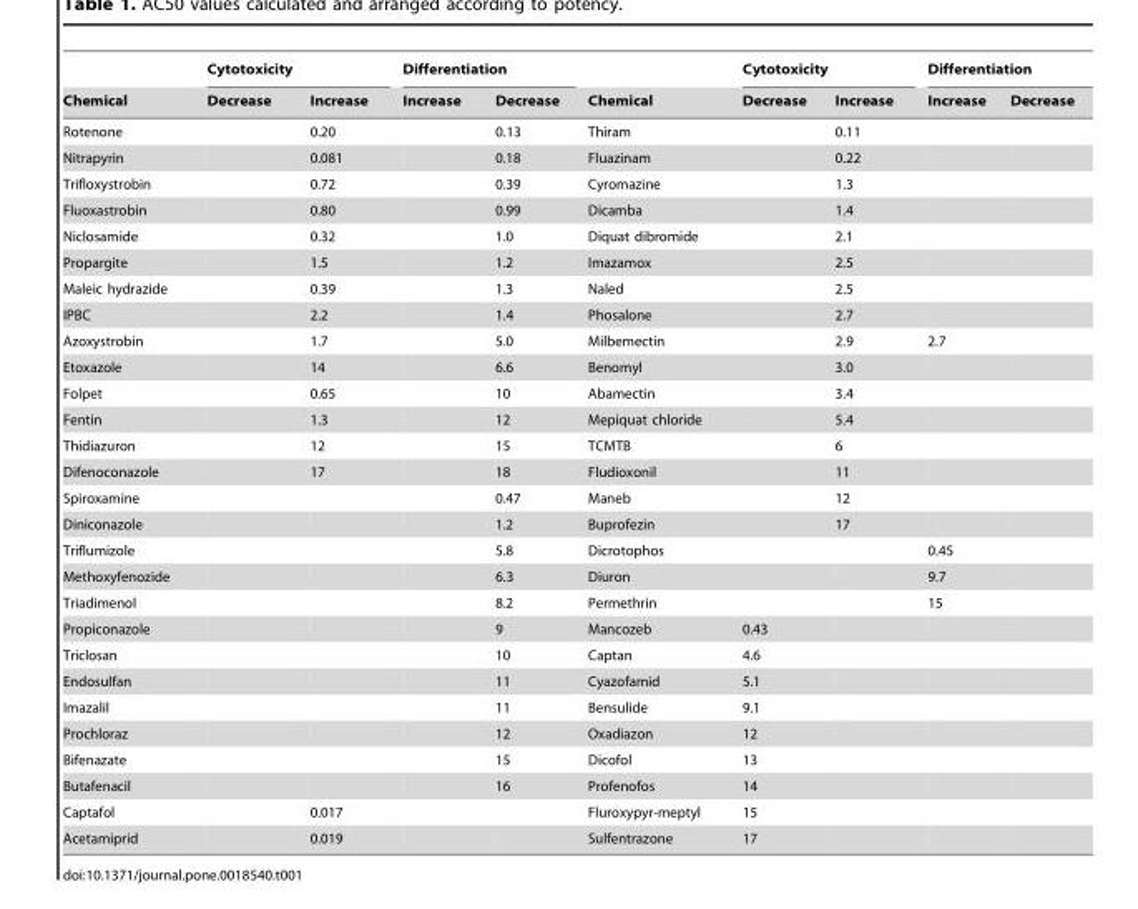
<table><thead><tr><td rowspan="2">Chemical</td><td colspan="2">Cytotoxicity</td><td colspan="2">Differentiation</td><td rowspan="2">Chemical</td><td colspan="2">Cytotoxicity</td><td colspan="2">Differentiation</td></tr><tr><td>Decrease</td><td>Increase</td><td>Increase</td><td>Decrease</td><td>Decrease</td><td>Increase</td><td>Increase</td><td>Decrease</td></tr></thead><tbody><tr><td>Rotenone</td><td></td><td>0.20</td><td></td><td>0.13</td><td>Thiram</td><td></td><td>0.11</td><td></td><td></td></tr><tr><td>Nitrapyrin</td><td></td><td>0.081</td><td></td><td>0.18</td><td>Fluazinam</td><td></td><td>0.22</td><td></td><td></td></tr><tr><td>Trifloxystrobin</td><td></td><td>0.72</td><td></td><td>0.39</td><td>Cyromazine</td><td></td><td>1.3</td><td></td><td></td></tr><tr><td>Fluoxastrobin</td><td></td><td>0.80</td><td></td><td>0.99</td><td>Dicamba</td><td></td><td>1.4</td><td></td><td></td></tr><tr><td>Niclosamide</td><td></td><td>0.32</td><td></td><td>1.0</td><td>Diquat dibromide</td><td></td><td>2.1</td><td></td><td></td></tr><tr><td>Propargite</td><td></td><td>1.5</td><td></td><td>1.2</td><td>Imazamox</td><td></td><td>2.5</td><td></td><td></td></tr><tr><td>Maleic hydrazide</td><td></td><td>0.39</td><td></td><td>1.3</td><td>Naled</td><td></td><td>2.5</td><td></td><td></td></tr><tr><td>IPBC</td><td></td><td>2.2</td><td></td><td>1.4</td><td>Phosalone</td><td></td><td>2.7</td><td></td><td></td></tr><tr><td>Azoxystrobin</td><td></td><td>1.7</td><td></td><td>5.0</td><td>Milbemectin</td><td></td><td>2.9</td><td>2.7</td><td></td></tr><tr><td>Etoxazole</td><td></td><td>14</td><td></td><td>6.6</td><td>Benomyl</td><td></td><td>3.0</td><td></td><td></td></tr><tr><td>Folpet</td><td></td><td>0.65</td><td></td><td>10</td><td>Abamectin</td><td></td><td>3.4</td><td></td><td></td></tr><tr><td>Fentin</td><td></td><td>1.3</td><td></td><td>12</td><td>Mepiquat chloride</td><td></td><td>5.4</td><td></td><td></td></tr><tr><td>Thidiazuron</td><td></td><td>12</td><td></td><td>15</td><td>TCMTB</td><td></td><td>6</td><td></td><td></td></tr><tr><td>Difenoconazole</td><td></td><td>17</td><td></td><td>18</td><td>Fludioxonil</td><td></td><td>11</td><td></td><td></td></tr><tr><td>Spiroxamine</td><td></td><td></td><td></td><td>0.47</td><td>Maneb</td><td></td><td>12</td><td></td><td></td></tr><tr><td>Diniconazole</td><td></td><td></td><td></td><td>1.2</td><td>Buprofezin</td><td></td><td>17</td><td></td><td></td></tr><tr><td>Triflumizole</td><td></td><td></td><td></td><td>5.8</td><td>Dicrotophos</td><td></td><td></td><td>0.45</td><td></td></tr><tr><td>Methoxyfenozide</td><td></td><td></td><td></td><td>6.3</td><td>Diuron</td><td></td><td></td><td>9.7</td><td></td></tr><tr><td>Triadimenol</td><td></td><td></td><td></td><td>8.2</td><td>Permethrin</td><td></td><td></td><td>15</td><td></td></tr><tr><td>Propiconazole</td><td></td><td></td><td></td><td>9</td><td>Mancozeb</td><td>0.43</td><td></td><td></td><td></td></tr><tr><td>Triclosan</td><td></td><td></td><td></td><td>10</td><td>Captan</td><td>4.6</td><td></td><td></td><td></td></tr><tr><td>Endosulfan</td><td></td><td></td><td></td><td>11</td><td>Cyazofamid</td><td>5.1</td><td></td><td></td><td></td></tr><tr><td>Imazalil</td><td></td><td></td><td></td><td>11</td><td>Bensulide</td><td>9.1</td><td></td><td></td><td></td></tr><tr><td>Prochloraz</td><td></td><td></td><td></td><td>12</td><td>Oxadiazon</td><td>12</td><td></td><td></td><td></td></tr><tr><td>Bifenazate</td><td></td><td></td><td></td><td>15</td><td>Dicofol</td><td>13</td><td></td><td></td><td></td></tr><tr><td>Butafenacil</td><td></td><td></td><td></td><td>16</td><td>Profenofos</td><td>14</td><td></td><td></td><td></td></tr><tr><td>Captafol</td><td></td><td>0.017</td><td></td><td></td><td>Fluroxypyr-meptyl</td><td>15</td><td></td><td></td><td></td></tr><tr><td>Acetamiprid</td><td></td><td>0.019</td><td></td><td></td><td>Sulfentrazone</td><td>17</td><td></td><td></td><td></td></tr></tbody></table>